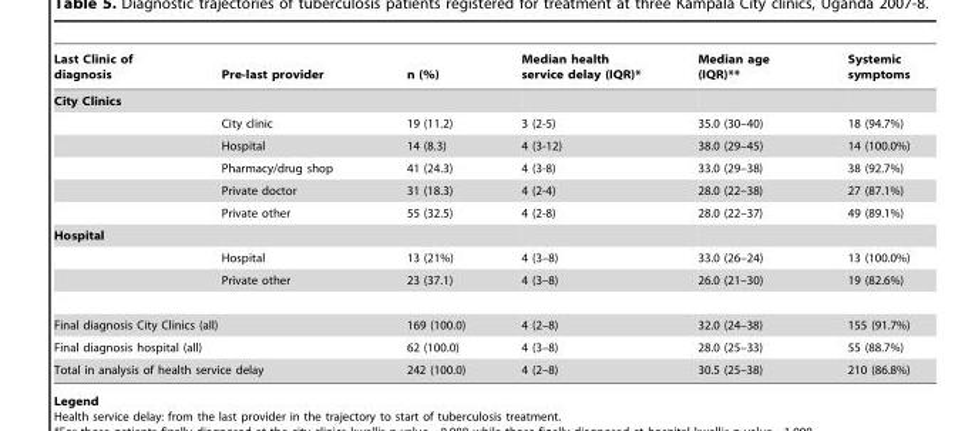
<table><thead><tr><td>Last Clinic of diagnosis</td><td>Pre-last provider</td><td>n (%)</td><td>Median health service delay (IQR)*</td><td>Median age (IQR)**</td><td>Systemic symptoms</td></tr></thead><tbody><tr><td colspan="6">City Clinics</td></tr><tr><td></td><td>City clinic</td><td>19 (11.2)</td><td>3 (2-5)</td><td>35.0 (30–40)</td><td>18 (94.7%)</td></tr><tr><td></td><td>Hospital</td><td>14 (8.3)</td><td>4 (3-12)</td><td>38.0 (29–45)</td><td>14 (100.0%)</td></tr><tr><td></td><td>Pharmacy/drug shop</td><td>41 (24.3)</td><td>4 (3-8)</td><td>33.0 (29–38)</td><td>38 (92.7%)</td></tr><tr><td></td><td>Private doctor</td><td>31 (18.3)</td><td>4 (2-4)</td><td>28.0 (22–38)</td><td>27 (87.1%)</td></tr><tr><td></td><td>Private other</td><td>55 (32.5)</td><td>4 (2-8)</td><td>28.0 (22–37)</td><td>49 (89.1%)</td></tr><tr><td colspan="6">Hospital</td></tr><tr><td></td><td>Hospital</td><td>13 (21%)</td><td>4 (3–8)</td><td>33.0 (26–24)</td><td>13 (100.0%)</td></tr><tr><td></td><td>Private other</td><td>23 (37.1)</td><td>4 (3–8)</td><td>26.0 (21–30)</td><td>19 (82.6%)</td></tr><tr><td colspan="2">Final diagnosis City Clinics (all)</td><td>169 (100.0)</td><td>4 (2–8)</td><td>32.0 (24–38)</td><td>155 (91.7%)</td></tr><tr><td colspan="2">Final diagnosis hospital (all)</td><td>62 (100.0)</td><td>4 (3–8)</td><td>28.0 (25–33)</td><td>55 (88.7%)</td></tr><tr><td colspan="2">Total in analysis of health service delay</td><td>242 (100.0)</td><td>4 (2–8)</td><td>30.5 (25–38)</td><td>210 (86.8%)</td></tr></tbody></table>